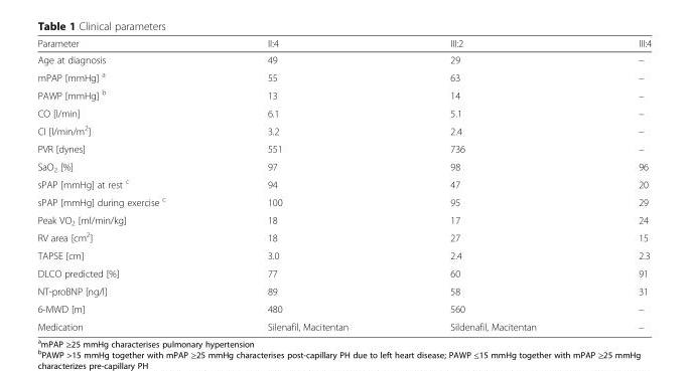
<table><thead><tr><td>Parameter</td><td>II:4</td><td>III:2</td><td>III:4</td></tr></thead><tbody><tr><td>Age at diagnosis</td><td>49</td><td>29</td><td>–</td></tr><tr><td>mPAP [mmHg] <sup>a</sup></td><td>55</td><td>63</td><td>–</td></tr><tr><td>PAWP [mmHg] <sup>b</sup></td><td>13</td><td>14</td><td>–</td></tr><tr><td>CO [l/min]</td><td>6.1</td><td>5.1</td><td>–</td></tr><tr><td>CI [l/min/m<sup>2</sup>]</td><td>3.2</td><td>2.4</td><td>–</td></tr><tr><td>PVR [dynes]</td><td>551</td><td>736</td><td>–</td></tr><tr><td>SaO<sub>2</sub> [%]</td><td>97</td><td>98</td><td>96</td></tr><tr><td>sPAP [mmHg] at rest <sup>c</sup></td><td>94</td><td>47</td><td>20</td></tr><tr><td>sPAP [mmHg] during exercise <sup>c</sup></td><td>100</td><td>95</td><td>29</td></tr><tr><td>Peak VO<sub>2</sub> [ml/min/kg]</td><td>18</td><td>17</td><td>24</td></tr><tr><td>RV area [cm<sup>2</sup>]</td><td>18</td><td>27</td><td>15</td></tr><tr><td>TAPSE [cm]</td><td>3.0</td><td>2.4</td><td>2.3</td></tr><tr><td>DLCO predicted [%]</td><td>77</td><td>60</td><td>91</td></tr><tr><td>NT-proBNP [ng/l]</td><td>89</td><td>58</td><td>31</td></tr><tr><td>6-MWD [m]</td><td>480</td><td>560</td><td>–</td></tr><tr><td>Medication</td><td>Silenafil, Macitentan</td><td>Sildenafil, Macitentan</td><td>–</td></tr></tbody></table>